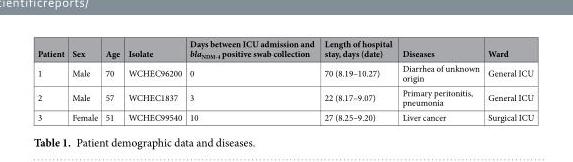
<table><thead><tr><td>Patient</td><td>Sex</td><td>Age</td><td>Isolate</td><td>Days between ICU admission and bla<sub>NDM-4</sub> positive swab collection</td><td>Length of hospital stay, days (date)</td><td>Diseases</td><td>Ward</td></tr></thead><tbody><tr><td>1</td><td>Male</td><td>70</td><td>WCHEC96200</td><td>0</td><td>70 (8.19–10.27)</td><td>Diarrhea of unknown origin</td><td>General ICU</td></tr><tr><td>2</td><td>Male</td><td>57</td><td>WCHEC1837</td><td>3</td><td>22 (8.17–9.07)</td><td>Primary peritonitis, pneumonia</td><td>General ICU</td></tr><tr><td>3</td><td>Female</td><td>51</td><td>WCHEC99540</td><td>10</td><td>27 (8.25–9.20)</td><td>Liver cancer</td><td>Surgical ICU</td></tr></tbody></table>